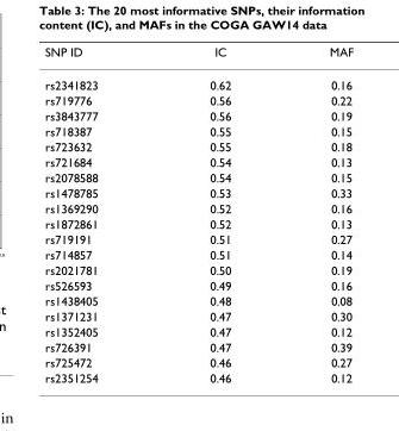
<table><thead><tr><td>SNP ID</td><td>IC</td><td>MAF</td></tr></thead><tbody><tr><td>rs2341823</td><td>0.62</td><td>0.16</td></tr><tr><td>rs719776</td><td>0.56</td><td>0.22</td></tr><tr><td>rs3843777</td><td>0.56</td><td>0.19</td></tr><tr><td>rs718387</td><td>0.55</td><td>0.15</td></tr><tr><td>rs723632</td><td>0.55</td><td>0.18</td></tr><tr><td>rs721684</td><td>0.54</td><td>0.13</td></tr><tr><td>rs2078588</td><td>0.54</td><td>0.15</td></tr><tr><td>rs1478785</td><td>0.53</td><td>0.33</td></tr><tr><td>rs1369290</td><td>0.52</td><td>0.16</td></tr><tr><td>rs1872861</td><td>0.52</td><td>0.13</td></tr><tr><td>rs719191</td><td>0.51</td><td>0.27</td></tr><tr><td>rs714857</td><td>0.51</td><td>0.14</td></tr><tr><td>rs2021781</td><td>0.50</td><td>0.19</td></tr><tr><td>rs526593</td><td>0.49</td><td>0.16</td></tr><tr><td>rs1438405</td><td>0.48</td><td>0.08</td></tr><tr><td>rs1371231</td><td>0.47</td><td>0.30</td></tr><tr><td>rs1352405</td><td>0.47</td><td>0.12</td></tr><tr><td>rs726391</td><td>0.47</td><td>0.39</td></tr><tr><td>rs725472</td><td>0.46</td><td>0.27</td></tr><tr><td>rs2351254</td><td>0.46</td><td>0.12</td></tr></tbody></table>